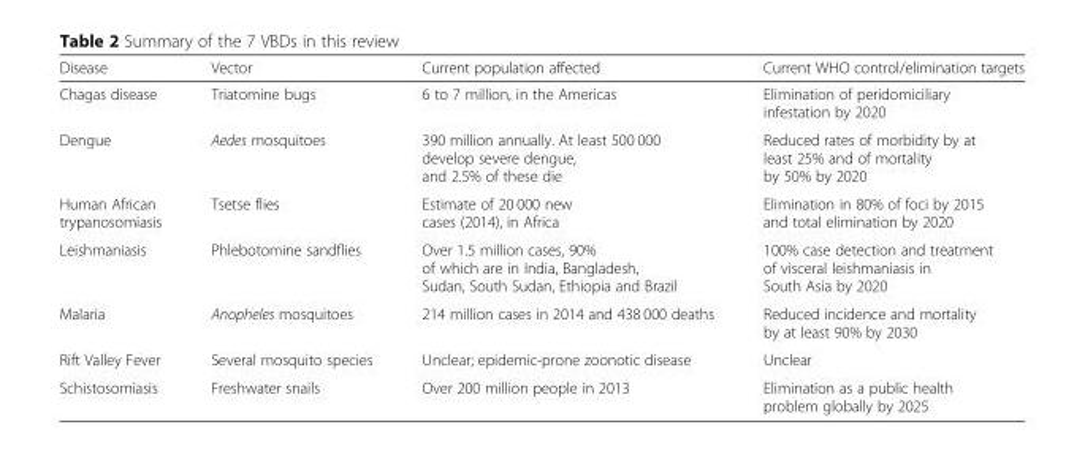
<table><thead><tr><td>Disease</td><td>Vector</td><td>Current population affected</td><td>Current WHO control/elimination targets</td></tr></thead><tbody><tr><td>Chagas disease</td><td>Triatomine bugs</td><td>6 to 7 million, in the Americas</td><td>Elimination of peridomiciliary infestation by 2020</td></tr><tr><td>Dengue</td><td>Aedes mosquitoes</td><td>390 million annually. At least 500 000 develop severe dengue, and 2.5% of these die</td><td>Reduced rates of morbidity by at least 25% and of mortality by 50% by 2020</td></tr><tr><td>Human African trypanosomiasis</td><td>Tsetse flies</td><td>Estimate of 20 000 new cases (2014), in Africa</td><td>Elimination in 80% of foci by 2015 and total elimination by 2020</td></tr><tr><td>Leishmaniasis</td><td>Phlebotomine sandflies</td><td>Over 1.5 million cases, 90% of which are in India, Bangladesh, Sudan, South Sudan, Ethiopia and Brazil</td><td>100% case detection and treatment of visceral leishmaniasis in South Asia by 2020</td></tr><tr><td>Malaria</td><td>Anopheles mosquitoes</td><td>214 million cases in 2014 and 438 000 deaths</td><td>Reduced incidence and mortality by at least 90% by 2030</td></tr><tr><td>Rift Valley Fever</td><td>Several mosquito species</td><td>Unclear; epidemic-prone zoonotic disease</td><td>Unclear</td></tr><tr><td>Schistosomiasis</td><td>Freshwater snails</td><td>Over 200 million people in 2013</td><td>Elimination as a public health problem globally by 2025</td></tr></tbody></table>